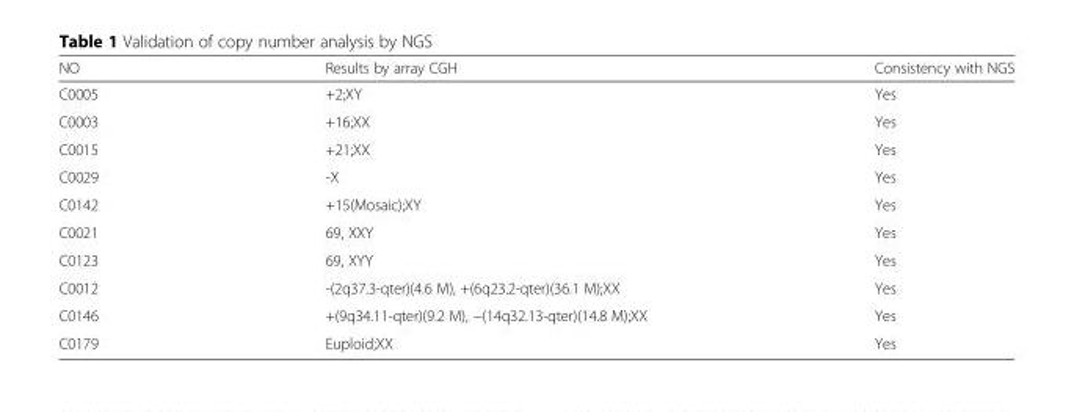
<table><thead><tr><td>NO</td><td>Results by array CGH</td><td>Consistency with NGS</td></tr></thead><tbody><tr><td>C0005</td><td>+2;XY</td><td>Yes</td></tr><tr><td>C0003</td><td>+16;XX</td><td>Yes</td></tr><tr><td>C0015</td><td>+21;XX</td><td>Yes</td></tr><tr><td>C0029</td><td>-X</td><td>Yes</td></tr><tr><td>C0142</td><td>+15(Mosaic);XY</td><td>Yes</td></tr><tr><td>C0021</td><td>69, XXY</td><td>Yes</td></tr><tr><td>C0123</td><td>69, XYY</td><td>Yes</td></tr><tr><td>C0012</td><td>-(2q37.3-qter)(4.6 M), +(6q23.2-qter)(36.1 M);XX</td><td>Yes</td></tr><tr><td>C0146</td><td>+(9q34.11-qter)(9.2 M), −(14q32.13-qter)(14.8 M);XX</td><td>Yes</td></tr><tr><td>C0179</td><td>Euploid;XX</td><td>Yes</td></tr></tbody></table>